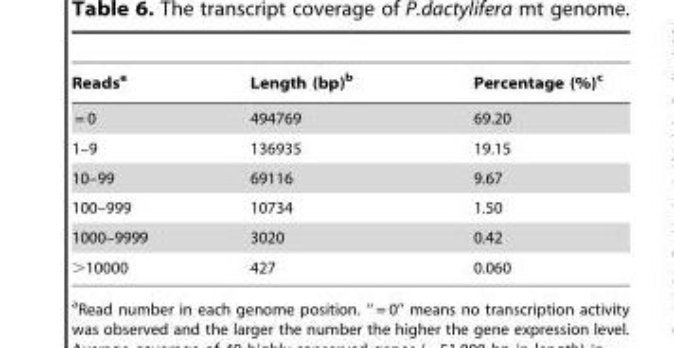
<table><thead><tr><td>Reads<sup>a</sup></td><td>Length (bp)<sup>b</sup></td><td>Percentage (%)<sup>c</sup></td></tr></thead><tbody><tr><td>= 0</td><td>494769</td><td>69.20</td></tr><tr><td>1–9</td><td>136935</td><td>19.15</td></tr><tr><td>10–99</td><td>69116</td><td>9.67</td></tr><tr><td>100–999</td><td>10734</td><td>1.50</td></tr><tr><td>1000–9999</td><td>3020</td><td>0.42</td></tr><tr><td>&gt;10000</td><td>427</td><td>0.060</td></tr></tbody></table>